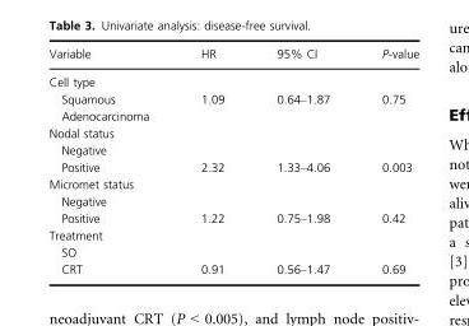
<table><thead><tr><td>Variable</td><td>HR</td><td>95% CI</td><td>P-value</td></tr></thead><tbody><tr><td colspan="4">Cell type</td></tr><tr><td>Squamous</td><td>1.09</td><td>0.64–1.87</td><td>0.75</td></tr><tr><td colspan="4">Adenocarcinoma</td></tr><tr><td colspan="4">Nodal status</td></tr><tr><td colspan="4">Negative</td></tr><tr><td>Positive</td><td>2.32</td><td>1.33–4.06</td><td>0.003</td></tr><tr><td colspan="4">Micromet status</td></tr><tr><td colspan="4">Negative</td></tr><tr><td>Positive</td><td>1.22</td><td>0.75–1.98</td><td>0.42</td></tr><tr><td colspan="4">Treatment</td></tr><tr><td colspan="4">SO</td></tr><tr><td>CRT</td><td>0.91</td><td>0.56–1.47</td><td>0.69</td></tr></tbody></table>